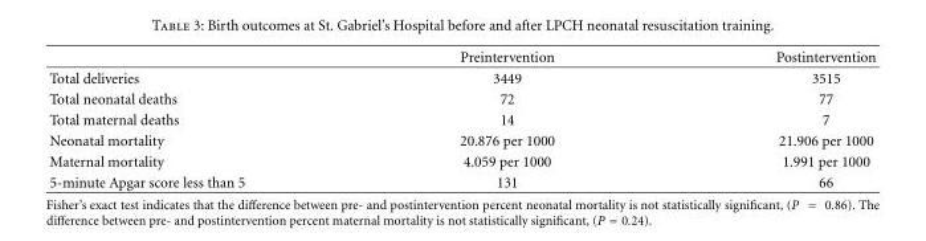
<table><thead><tr><td></td><td>Preintervention</td><td>Postintervention</td></tr></thead><tbody><tr><td>Total deliveries</td><td>3449</td><td>3515</td></tr><tr><td>Total neonatal deaths</td><td>72</td><td>77</td></tr><tr><td>Total maternal deaths</td><td>14</td><td>7</td></tr><tr><td>Neonatal mortality</td><td>20.876 per 1000</td><td>21.906 per 1000</td></tr><tr><td>Maternal mortality</td><td>4.059 per 1000</td><td>1.991 per 1000</td></tr><tr><td>5-minute Apgar score less than 5</td><td>131</td><td>66</td></tr></tbody></table>